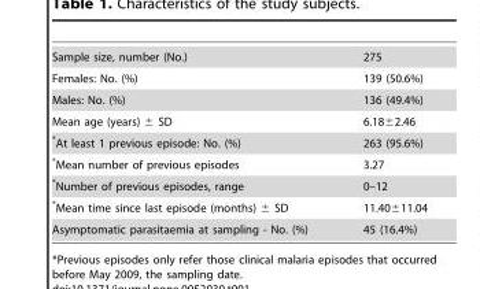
<table><tbody><tr><td>Sample size, number (No.)</td><td>275</td></tr><tr><td>Females: No. (%)</td><td>139 (50.6%)</td></tr><tr><td>Males: No. (%)</td><td>136 (49.4%)</td></tr><tr><td>Mean age (years) ± SD</td><td>6.18±2.46</td></tr><tr><td>*At least 1 previous episode: No. (%)</td><td>263 (95.6%)</td></tr><tr><td>*Mean number of previous episodes</td><td>3.27</td></tr><tr><td>*Number of previous episodes, range</td><td>0–12</td></tr><tr><td>*Mean time since last episode (months) ± SD</td><td>11.40±11.04</td></tr><tr><td>Asymptomatic parasitaemia at sampling - No. (%)</td><td>45 (16.4%)</td></tr></tbody></table>